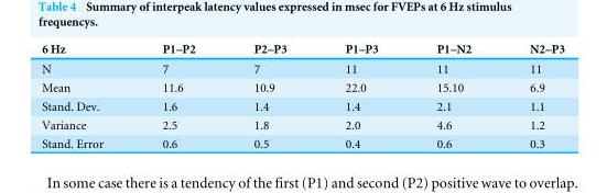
<table><thead><tr><td>6 Hz</td><td>P1–P2</td><td>P2–P3</td><td>P1–P3</td><td>P1–N2</td><td>N2–P3</td></tr></thead><tbody><tr><td>N</td><td>7</td><td>7</td><td>11</td><td>11</td><td>11</td></tr><tr><td>Mean</td><td>11.6</td><td>10.9</td><td>22.0</td><td>15.10</td><td>6.9</td></tr><tr><td>Stand. Dev.</td><td>1.6</td><td>1.4</td><td>1.4</td><td>2.1</td><td>1.1</td></tr><tr><td>Variance</td><td>2.5</td><td>1.8</td><td>2.0</td><td>4.6</td><td>1.2</td></tr><tr><td>Stand. Error</td><td>0.6</td><td>0.5</td><td>0.4</td><td>0.6</td><td>0.3</td></tr></tbody></table>